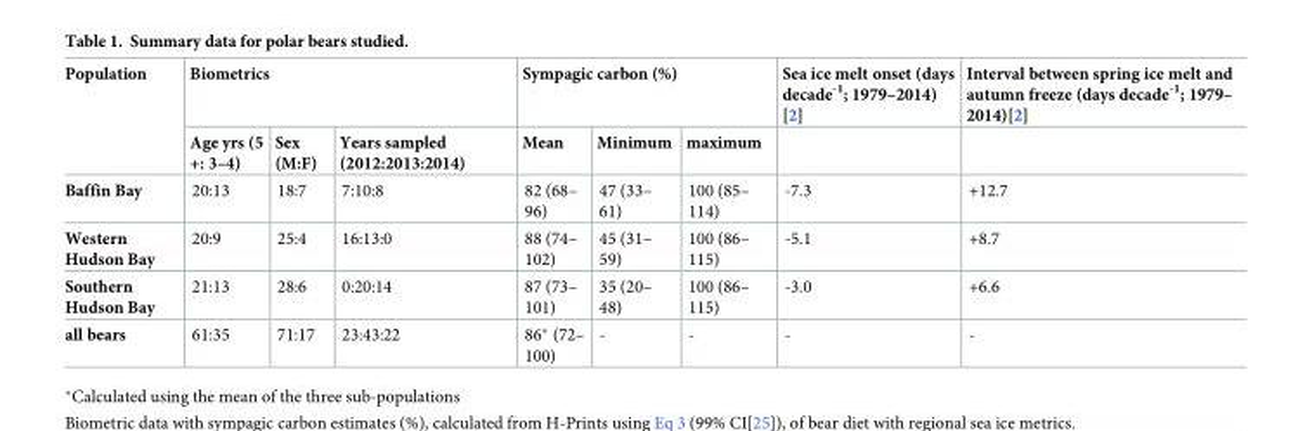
<table><thead><tr><td rowspan="2">Population</td><td colspan="3">Biometrics</td><td colspan="3">Sympagic carbon (%)</td><td rowspan="2">Sea ice melt onset (days decade<sup>-1</sup>; 1979–2014) [2]</td><td rowspan="2">Interval between spring ice melt and autumn freeze (days decade<sup>-1</sup>; 1979– 2014)[2]</td></tr><tr><td>Age yrs (5 +: 3–4)</td><td>Sex (M:F)</td><td>Years sampled (2012:2013:2014)</td><td>Mean</td><td>Minimum</td><td>maximum</td></tr></thead><tbody><tr><td>Baffin Bay</td><td>20:13</td><td>18:7</td><td>7:10:8</td><td>82 (68– 96)</td><td>47 (33– 61)</td><td>100 (85– 114)</td><td>-7.3</td><td>+12.7</td></tr><tr><td>Western Hudson Bay</td><td>20:9</td><td>25:4</td><td>16:13:0</td><td>88 (74– 102)</td><td>45 (31– 59)</td><td>100 (86– 115)</td><td>-5.1</td><td>+8.7</td></tr><tr><td>Southern Hudson Bay</td><td>21:13</td><td>28:6</td><td>0:20:14</td><td>87 (73– 101)</td><td>35 (20– 48)</td><td>100 (86– 115)</td><td>-3.0</td><td>+6.6</td></tr><tr><td>all bears</td><td>61:35</td><td>71:17</td><td>23:43:22</td><td>86* (72– 100)</td><td>-</td><td>-</td><td>-</td><td>-</td></tr></tbody></table>